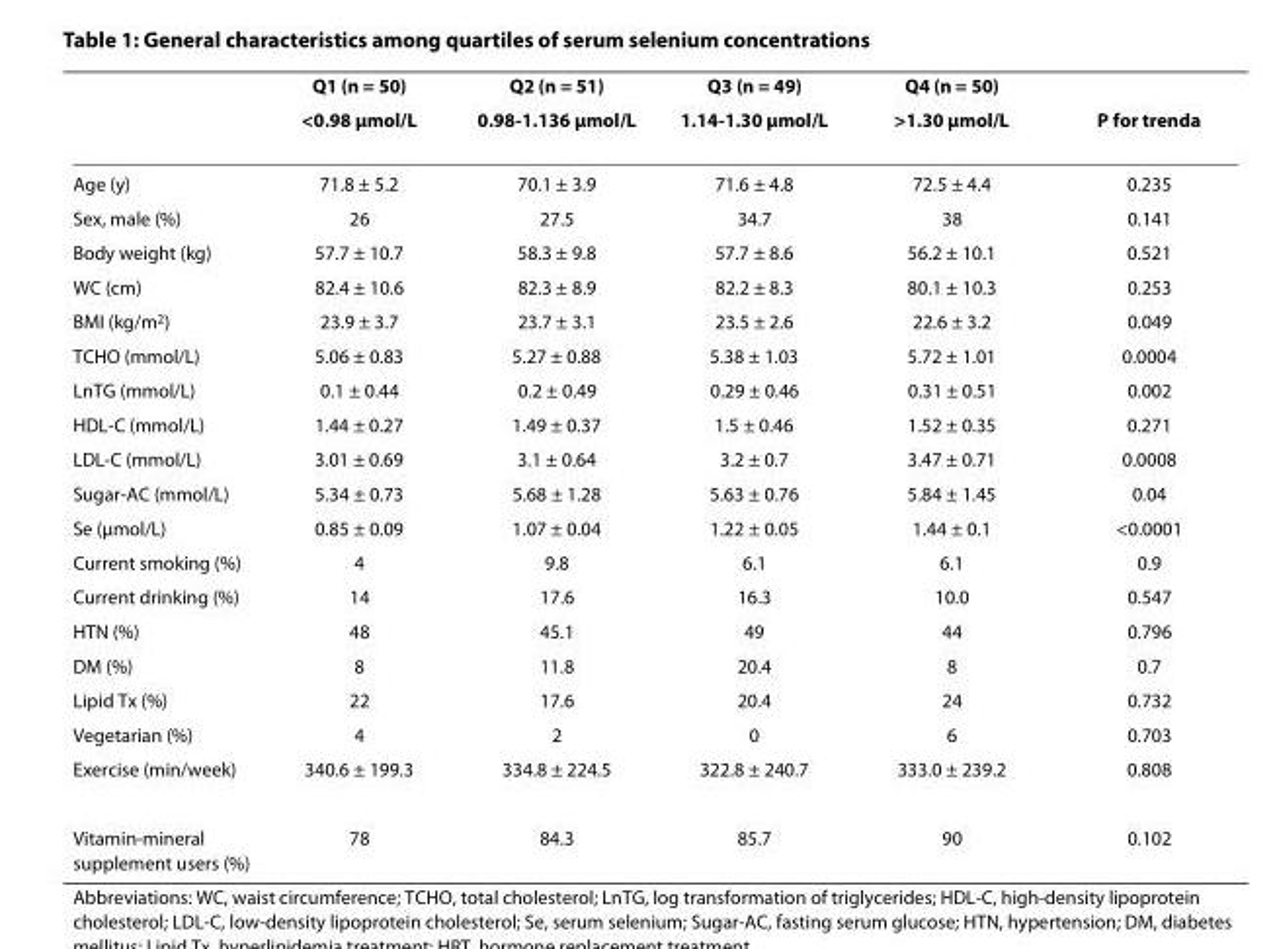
<table><thead><tr><td rowspan="2"></td><td rowspan="2">Q1 (n = 50) &lt;0.98 μmol/L</td><td rowspan="2">Q2 (n = 51) 0.98-1.136 μmol/L</td><td rowspan="2">Q3 (n = 49) 1.14-1.30 μmol/L</td><td rowspan="2">Q4 (n = 50) &gt;1.30 μmol/L</td><td rowspan="2">P for trend<sup>a</sup></td></tr><tr></tr></thead><tbody><tr><td>Age (y)</td><td>71.8 ± 5.2</td><td>70.1 ± 3.9</td><td>71.6 ± 4.8</td><td>72.5 ± 4.4</td><td>0.235</td></tr><tr><td>Sex, male (%)</td><td>26</td><td>27.5</td><td>34.7</td><td>38</td><td>0.141</td></tr><tr><td>Body weight (kg)</td><td>57.7 ± 10.7</td><td>58.3 ± 9.8</td><td>57.7 ± 8.6</td><td>56.2 ± 10.1</td><td>0.521</td></tr><tr><td>WC (cm)</td><td>82.4 ± 10.6</td><td>82.3 ± 8.9</td><td>82.2 ± 8.3</td><td>80.1 ± 10.3</td><td>0.253</td></tr><tr><td>BMI (kg/m<sup>2</sup>)</td><td>23.9 ± 3.7</td><td>23.7 ± 3.1</td><td>23.5 ± 2.6</td><td>22.6 ± 3.2</td><td>0.049</td></tr><tr><td>TCHO (mmol/L)</td><td>5.06 ± 0.83</td><td>5.27 ± 0.88</td><td>5.38 ± 1.03</td><td>5.72 ± 1.01</td><td>0.0004</td></tr><tr><td>LnTG (mmol/L)</td><td>0.1 ± 0.44</td><td>0.2 ± 0.49</td><td>0.29 ± 0.46</td><td>0.31 ± 0.51</td><td>0.002</td></tr><tr><td>HDL-C (mmol/L)</td><td>1.44 ± 0.27</td><td>1.49 ± 0.37</td><td>1.5 ± 0.46</td><td>1.52 ± 0.35</td><td>0.271</td></tr><tr><td>LDL-C (mmol/L)</td><td>3.01 ± 0.69</td><td>3.1 ± 0.64</td><td>3.2 ± 0.7</td><td>3.47 ± 0.71</td><td>0.0008</td></tr><tr><td>Sugar-AC (mmol/L)</td><td>5.34 ± 0.73</td><td>5.68 ± 1.28</td><td>5.63 ± 0.76</td><td>5.84 ± 1.45</td><td>0.04</td></tr><tr><td>Se (μmol/L)</td><td>0.85 ± 0.09</td><td>1.07 ± 0.04</td><td>1.22 ± 0.05</td><td>1.44 ± 0.1</td><td>&lt;0.0001</td></tr><tr><td>Current smoking (%)</td><td>4</td><td>9.8</td><td>6.1</td><td>6.1</td><td>0.9</td></tr><tr><td>Current drinking (%)</td><td>14</td><td>17.6</td><td>16.3</td><td>10.0</td><td>0.547</td></tr><tr><td>HTN (%)</td><td>48</td><td>45.1</td><td>49</td><td>44</td><td>0.796</td></tr><tr><td>DM (%)</td><td>8</td><td>11.8</td><td>20.4</td><td>8</td><td>0.7</td></tr><tr><td>Lipid Tx (%)</td><td>22</td><td>17.6</td><td>20.4</td><td>24</td><td>0.732</td></tr><tr><td>Vegetarian (%)</td><td>4</td><td>2</td><td>0</td><td>6</td><td>0.703</td></tr><tr><td>Exercise (min/week)</td><td>340.6 ± 199.3</td><td>334.8 ± 224.5</td><td>322.8 ± 240.7</td><td>333.0 ± 239.2</td><td>0.808</td></tr><tr><td>Vitamin-mineral supplement users (%)</td><td>78</td><td>84.3</td><td>85.7</td><td>90</td><td>0.102</td></tr></tbody></table>